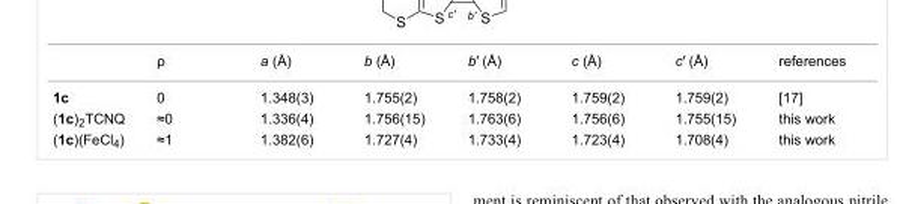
<table><thead><tr><td></td><td>ρ</td><td>a (Å)</td><td>b (Å)</td><td>b′ (Å)</td><td>c (Å)</td><td>c′ (Å)</td><td>references</td></tr></thead><tbody><tr><td>1c</td><td>0</td><td>1.348(3)</td><td>1.755(2)</td><td>1.758(2)</td><td>1.759(2)</td><td>1.759(2)</td><td>[17]</td></tr><tr><td>(1c)<sub>2</sub>TCNQ</td><td>≈0</td><td>1.336(4)</td><td>1.756(15)</td><td>1.763(6)</td><td>1.756(6)</td><td>1.755(15)</td><td>this work</td></tr><tr><td>(1c)(FeCl<sub>4</sub>)</td><td>≈1</td><td>1.382(6)</td><td>1.727(4)</td><td>1.733(4)</td><td>1.723(4)</td><td>1.708(4)</td><td>this work</td></tr></tbody></table>